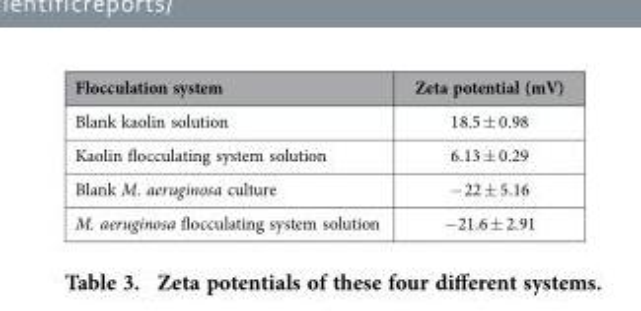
<table><thead><tr><td>Flocculation system</td><td>Zeta potential (mV)</td></tr></thead><tbody><tr><td>Blank kaolin solution</td><td>18.5 ± 0.98</td></tr><tr><td>Kaolin flocculating system solution</td><td>6.13 ± 0.29</td></tr><tr><td>Blank M. aeruginosa culture</td><td>− 22 ± 5.16</td></tr><tr><td>M. aeruginosa flocculating system solution</td><td>− 21.6 ± 2.91</td></tr></tbody></table>